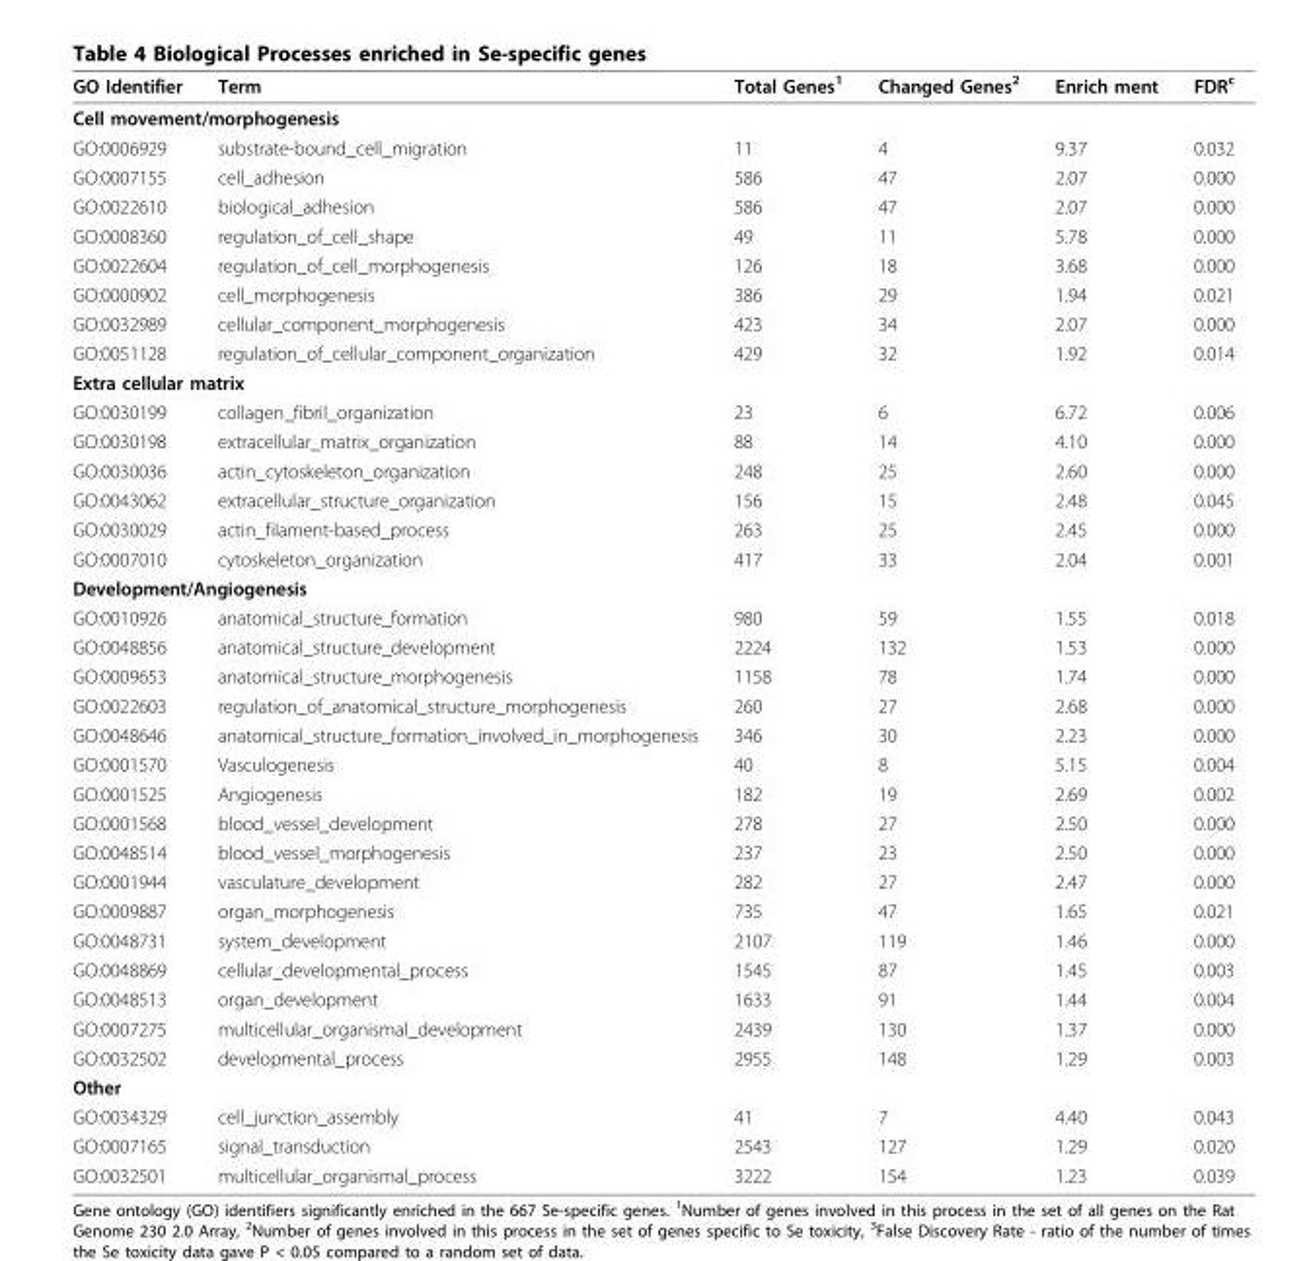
<table><thead><tr><td>GO Identifier</td><td>Term</td><td>Total Genes<sup>1</sup></td><td>Changed Genes<sup>2</sup></td><td>Enrich ment</td><td>FDR<sup>c</sup></td></tr></thead><tbody><tr><td colspan="6">Cell movement/morphogenesis</td></tr><tr><td>GO:0006929</td><td>substrate-bound_cell_migration</td><td>11</td><td>4</td><td>9.37</td><td>0.032</td></tr><tr><td>GO:0007155</td><td>cell_adhesion</td><td>586</td><td>47</td><td>2.07</td><td>0.000</td></tr><tr><td>GO:0022610</td><td>biological_adhesion</td><td>586</td><td>47</td><td>2.07</td><td>0.000</td></tr><tr><td>GO:0008360</td><td>regulation_of_cell_shape</td><td>49</td><td>11</td><td>5.78</td><td>0.000</td></tr><tr><td>GO:0022604</td><td>regulation_of_cell_morphogenesis</td><td>126</td><td>18</td><td>3.68</td><td>0.000</td></tr><tr><td>GO:0000902</td><td>cell_morphogenesis</td><td>386</td><td>29</td><td>1.94</td><td>0.021</td></tr><tr><td>GO:0032989</td><td>cellular_component_morphogenesis</td><td>423</td><td>34</td><td>2.07</td><td>0.000</td></tr><tr><td>GO:0051128</td><td>regulation_of_cellular_component_organization</td><td>429</td><td>32</td><td>1.92</td><td>0.014</td></tr><tr><td colspan="6">Extra cellular matrix</td></tr><tr><td>GO:0030199</td><td>collagen_fibril_organization</td><td>23</td><td>6</td><td>6.72</td><td>0.006</td></tr><tr><td>GO:0030198</td><td>extracellular_matrix_organization</td><td>88</td><td>14</td><td>4.10</td><td>0.000</td></tr><tr><td>GO:0030036</td><td>actin_cytoskeleton_organization</td><td>248</td><td>25</td><td>2.60</td><td>0.000</td></tr><tr><td>GO:0043062</td><td>extracellular_structure_organization</td><td>156</td><td>15</td><td>2.48</td><td>0.045</td></tr><tr><td>GO:0030029</td><td>actin_filament-based_process</td><td>263</td><td>25</td><td>2.45</td><td>0.000</td></tr><tr><td>GO:0007010</td><td>cytoskeleton_organization</td><td>417</td><td>33</td><td>2.04</td><td>0.001</td></tr><tr><td colspan="6">Development/Angiogenesis</td></tr><tr><td>GO:0010926</td><td>anatomical_structure_formation</td><td>980</td><td>59</td><td>1.55</td><td>0.018</td></tr><tr><td>GO:0048856</td><td>anatomical_structure_development</td><td>2224</td><td>132</td><td>1.53</td><td>0.000</td></tr><tr><td>GO:0009653</td><td>anatomical_structure_morphogenesis</td><td>1158</td><td>78</td><td>1.74</td><td>0.000</td></tr><tr><td>GO:0022603</td><td>regulation_of_anatomical_structure_morphogenesis</td><td>260</td><td>27</td><td>2.68</td><td>0.000</td></tr><tr><td>GO:0048646</td><td>anatomical_structure_formation_involved_in_morphogenesis</td><td>346</td><td>30</td><td>2.23</td><td>0.000</td></tr><tr><td>GO:0001570</td><td>Vasculogenesis</td><td>40</td><td>8</td><td>5.15</td><td>0.004</td></tr><tr><td>GO:0001525</td><td>Angiogenesis</td><td>182</td><td>19</td><td>2.69</td><td>0.002</td></tr><tr><td>GO:0001568</td><td>blood_vessel_development</td><td>278</td><td>27</td><td>2.50</td><td>0.000</td></tr><tr><td>GO:0048514</td><td>blood_vessel_morphogenesis</td><td>237</td><td>23</td><td>2.50</td><td>0.000</td></tr><tr><td>GO:0001944</td><td>vasculature_development</td><td>282</td><td>27</td><td>2.47</td><td>0.000</td></tr><tr><td>GO:0009887</td><td>organ_morphogenesis</td><td>735</td><td>47</td><td>1.65</td><td>0.021</td></tr><tr><td>GO:0048731</td><td>system_development</td><td>2107</td><td>119</td><td>1.46</td><td>0.000</td></tr><tr><td>GO:0048869</td><td>cellular_developmental_process</td><td>1545</td><td>87</td><td>1.45</td><td>0.003</td></tr><tr><td>GO:0048513</td><td>organ_development</td><td>1633</td><td>91</td><td>1.44</td><td>0.004</td></tr><tr><td>GO:0007275</td><td>multicellular_organismal_development</td><td>2439</td><td>130</td><td>1.37</td><td>0.000</td></tr><tr><td>GO:0032502</td><td>developmental_process</td><td>2955</td><td>148</td><td>1.29</td><td>0.003</td></tr><tr><td colspan="6">Other</td></tr><tr><td>GO:0034329</td><td>cell_junction_assembly</td><td>41</td><td>7</td><td>4.40</td><td>0.043</td></tr><tr><td>GO:0007165</td><td>signal_transduction</td><td>2543</td><td>127</td><td>1.29</td><td>0.020</td></tr><tr><td>GO:0032501</td><td>multicellular_organismal_process</td><td>3222</td><td>154</td><td>1.23</td><td>0.039</td></tr></tbody></table>